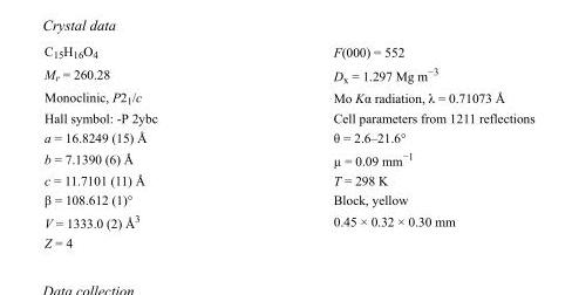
<table><tbody><tr><td>C<sub>15</sub>H<sub>16</sub>O<sub>4</sub></td><td>F(000) = 552</td></tr><tr><td>M<sub>r</sub> = 260.28</td><td>D<sub>x</sub> = 1.297 Mg m<sup>−3</sup></td></tr><tr><td>Monoclinic, P2<sub>1</sub>/c</td><td>Mo Kα radiation, λ = 0.71073 Å</td></tr><tr><td>Hall symbol: -P 2ybc</td><td>Cell parameters from 1211 reflections</td></tr><tr><td>a = 16.8249 (15) Å</td><td>θ = 2.6–21.6°</td></tr><tr><td>b = 7.1390 (6) Å</td><td>µ = 0.09 mm<sup>−1</sup></td></tr><tr><td>c = 11.7101 (11) Å</td><td>T = 298 K</td></tr><tr><td>β = 108.612 (1)°</td><td>Block, yellow</td></tr><tr><td>V = 1333.0 (2) Å<sup>3</sup></td><td>0.45 × 0.32 × 0.30 mm</td></tr><tr><td>Z = 4</td><td></td></tr></tbody></table>